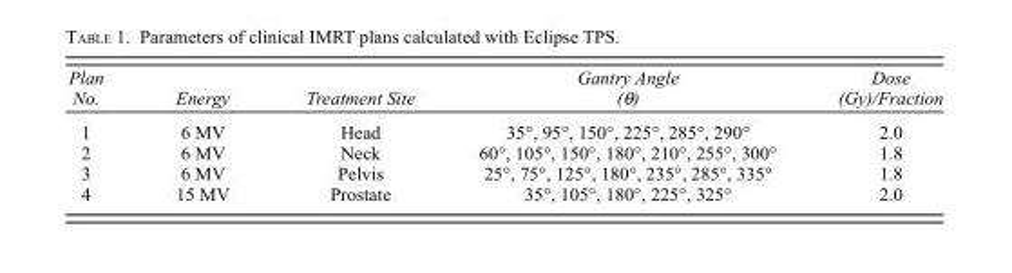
<table><thead><tr><td>Plan No.</td><td>Energy</td><td>Treatment Site</td><td>Gantry Angle (θ)</td><td>Dose (Gy)/Fraction</td></tr></thead><tbody><tr><td>1</td><td>6 MV</td><td>Head</td><td>35°, 95°, 150°, 225°, 285°, 290°</td><td>2.0</td></tr><tr><td>2</td><td>6 MV</td><td>Neck</td><td>60°, 105°, 150°, 180°, 210°, 255°, 300°</td><td>1.8</td></tr><tr><td>3</td><td>6 MV</td><td>Pelvis</td><td>25°, 75°, 125°, 180°, 235°, 285°, 335°</td><td>1.8</td></tr><tr><td>4</td><td>15 MV</td><td>Prostate</td><td>35°, 105°, 180°, 225°, 325°</td><td>2.0</td></tr></tbody></table>